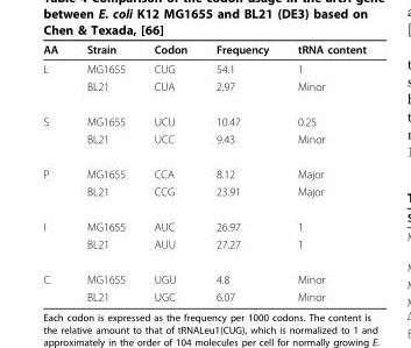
<table><thead><tr><td>AA</td><td>Strain</td><td>Codon</td><td>Frequency</td><td>tRNA content</td></tr></thead><tbody><tr><td rowspan="2">L</td><td>MG1655</td><td>CUG</td><td>54.1</td><td>1</td></tr><tr><td>BL21</td><td>CUA</td><td>2.97</td><td>Minor</td></tr><tr><td rowspan="2">S</td><td>MG1655</td><td>UCU</td><td>10.47</td><td>0.25</td></tr><tr><td>BL21</td><td>UCC</td><td>9.43</td><td>Minor</td></tr><tr><td rowspan="2">P</td><td>MG1655</td><td>CCA</td><td>8.12</td><td>Major</td></tr><tr><td>BL21</td><td>CCG</td><td>23.91</td><td>Major</td></tr><tr><td rowspan="2">I</td><td>MG1655</td><td>AUC</td><td>26.97</td><td>1</td></tr><tr><td>BL21</td><td>AUU</td><td>27.27</td><td>1</td></tr><tr><td rowspan="2">C</td><td>MG1655</td><td>UGU</td><td>4.8</td><td>Minor</td></tr><tr><td>BL21</td><td>UGC</td><td>6.07</td><td>Minor</td></tr></tbody></table>